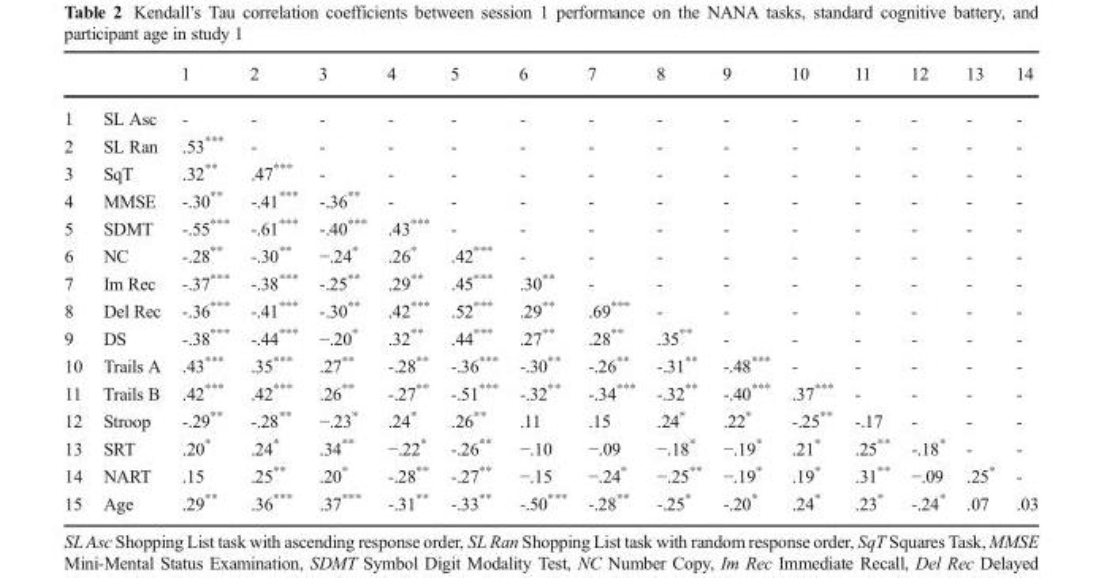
<table><thead><tr><td></td><td></td><td>1</td><td>2</td><td>3</td><td>4</td><td>5</td><td>6</td><td>7</td><td>8</td><td>9</td><td>10</td><td>11</td><td>12</td><td>13</td><td>14</td></tr></thead><tbody><tr><td>1</td><td>SL Asc</td><td>-</td><td>-</td><td>-</td><td>-</td><td>-</td><td>-</td><td>-</td><td>-</td><td>-</td><td>-</td><td>-</td><td>-</td><td>-</td><td>-</td></tr><tr><td>2</td><td>SL Ran</td><td>.53***</td><td>-</td><td>-</td><td>-</td><td>-</td><td>-</td><td>-</td><td>-</td><td>-</td><td>-</td><td>-</td><td>-</td><td>-</td><td>-</td></tr><tr><td>3</td><td>SqT</td><td>.32**</td><td>.47***</td><td>-</td><td>-</td><td>-</td><td>-</td><td>-</td><td>-</td><td>-</td><td>-</td><td>-</td><td>-</td><td>-</td><td>-</td></tr><tr><td>4</td><td>MMSE</td><td>-.30**</td><td>-.41***</td><td>-.36**</td><td>-</td><td>-</td><td>-</td><td>-</td><td>-</td><td>-</td><td>-</td><td>-</td><td>-</td><td>-</td><td>-</td></tr><tr><td>5</td><td>SDMT</td><td>-.55***</td><td>-.61***</td><td>-.40***</td><td>.43***</td><td>-</td><td>-</td><td>-</td><td>-</td><td>-</td><td>-</td><td>-</td><td>-</td><td>-</td><td>-</td></tr><tr><td>6</td><td>NC</td><td>-.28**</td><td>-.30**</td><td>−.24*</td><td>.26*</td><td>.42***</td><td>-</td><td>-</td><td>-</td><td>-</td><td>-</td><td>-</td><td>-</td><td>-</td><td>-</td></tr><tr><td>7</td><td>Im Rec</td><td>-.37***</td><td>-.38***</td><td>-.25**</td><td>.29**</td><td>.45***</td><td>.30**</td><td>-</td><td>-</td><td>-</td><td>-</td><td>-</td><td>-</td><td>-</td><td>-</td></tr><tr><td>8</td><td>Del Rec</td><td>-.36***</td><td>-.41***</td><td>-.30**</td><td>.42***</td><td>.52***</td><td>.29**</td><td>.69***</td><td>-</td><td>-</td><td>-</td><td>-</td><td>-</td><td>-</td><td>-</td></tr><tr><td>9</td><td>DS</td><td>-.38***</td><td>-.44***</td><td>−.20*</td><td>.32**</td><td>.44***</td><td>.27**</td><td>.28**</td><td>.35**</td><td>-</td><td>-</td><td>-</td><td>-</td><td>-</td><td>-</td></tr><tr><td>10</td><td>Trails A</td><td>.43***</td><td>.35***</td><td>.27**</td><td>-.28**</td><td>-.36***</td><td>-.30**</td><td>-.26**</td><td>-.31**</td><td>-.48***</td><td>-</td><td>-</td><td>-</td><td>-</td><td>-</td></tr><tr><td>11</td><td>Trails B</td><td>.42***</td><td>.42***</td><td>.26**</td><td>-.27**</td><td>-.51***</td><td>-.32**</td><td>-.34***</td><td>-.32**</td><td>-.40***</td><td>.37***</td><td>-</td><td>-</td><td>-</td><td>-</td></tr><tr><td>12</td><td>Stroop</td><td>-.29**</td><td>-.28**</td><td>−.23*</td><td>.24*</td><td>.26**</td><td>.11</td><td>.15</td><td>.24*</td><td>.22*</td><td>-.25**</td><td>-.17</td><td>-</td><td>-</td><td>-</td></tr><tr><td>13</td><td>SRT</td><td>.20*</td><td>.24*</td><td>.34**</td><td>−.22*</td><td>-.26**</td><td>−.10</td><td>−.09</td><td>−.18*</td><td>−.19*</td><td>.21*</td><td>.25**</td><td>-.18*</td><td>-</td><td>-</td></tr><tr><td>14</td><td>NART</td><td>.15</td><td>.25**</td><td>.20*</td><td>-.28**</td><td>-.27**</td><td>−.15</td><td>−.24*</td><td>−.25**</td><td>−.19*</td><td>.19*</td><td>.31**</td><td>−.09</td><td>.25*</td><td>-</td></tr><tr><td>15</td><td>Age</td><td>.29**</td><td>.36***</td><td>.37***</td><td>-.31**</td><td>-.33**</td><td>-.50***</td><td>-.28**</td><td>-.25*</td><td>-.20*</td><td>.24*</td><td>.23*</td><td>-.24*</td><td>.07</td><td>.03</td></tr></tbody></table>